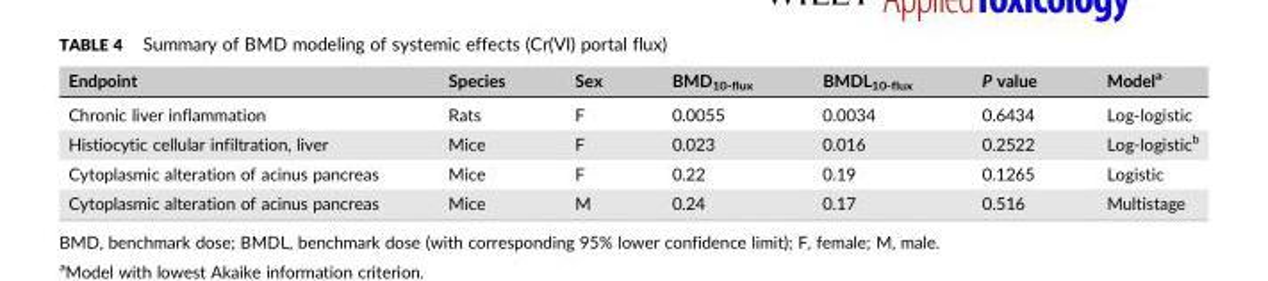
<table><thead><tr><td>Endpoint</td><td>Species</td><td>Sex</td><td>BMD<sub>10‐flux</sub></td><td>BMDL<sub>10‐flux</sub></td><td>P value</td><td>Model<sup>a</sup></td></tr></thead><tbody><tr><td>Chronic liver inflammation</td><td>Rats</td><td>F</td><td>0.0055</td><td>0.0034</td><td>0.6434</td><td>Log‐logistic</td></tr><tr><td>Histiocytic cellular infiltration, liver</td><td>Mice</td><td>F</td><td>0.023</td><td>0.016</td><td>0.2522</td><td>Log‐logistic<sup>b</sup></td></tr><tr><td>Cytoplasmic alteration of acinus pancreas</td><td>Mice</td><td>F</td><td>0.22</td><td>0.19</td><td>0.1265</td><td>Logistic</td></tr><tr><td>Cytoplasmic alteration of acinus pancreas</td><td>Mice</td><td>M</td><td>0.24</td><td>0.17</td><td>0.516</td><td>Multistage</td></tr></tbody></table>